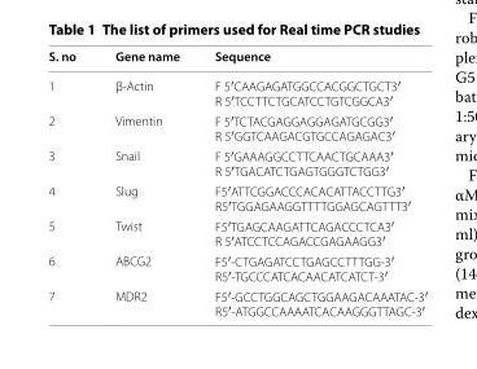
<table><thead><tr><td>S. no</td><td>Gene name</td><td>Sequence</td></tr></thead><tbody><tr><td>1</td><td>β-Actin</td><td>F 5′CAAGAGATGGCCACGGCTGCT3′ R 5′TCCTTCTGCATCCTGTCGGCA3′</td></tr><tr><td>2</td><td>Vimentin</td><td>F 5′TCTACGAGGAGGAGATGCGG3′ R 5′GGTCAAGACGTGCCAGAGAC3′</td></tr><tr><td>3</td><td>Snail</td><td>F 5′GAAAGGCCTTCAACTGCAAA3′ R 5′TGACATCTGAGTGGGTCTGG3′</td></tr><tr><td>4</td><td>Slug</td><td>F5′ATTCGGACCCACACATTACCTTG3′ R5′TGGAGAAGGTTTTGGAGCAGTTT3′</td></tr><tr><td>5</td><td>Twist</td><td>F5′TGAGCAAGATTCAGACCCTCA3′ R 5′ATCCTCCAGACCGAGAAGG3′</td></tr><tr><td>6</td><td>ABCG2</td><td>F5′-CTGAGATCCTGAGCCTTTGG-3′ R5′-TGCCCATCACAACATCATCT-3′</td></tr><tr><td>7</td><td>MDR2</td><td>F5′-GCCTGGCAGCTGGAAGACAAATAC-3′ R5′-ATGGCCAAAATCACAAGGGTTAGC-3′</td></tr></tbody></table>